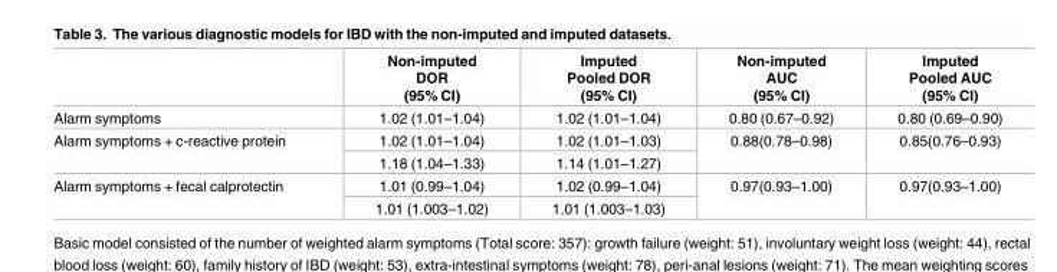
<table><thead><tr><td></td><td>Non-imputed DOR (95% CI)</td><td>Imputed Pooled DOR (95% CI)</td><td>Non-imputed AUC (95% CI)</td><td>Imputed Pooled AUC (95% CI)</td></tr></thead><tbody><tr><td>Alarm symptoms</td><td>1.02 (1.01–1.04)</td><td>1.02 (1.01–1.04)</td><td>0.80 (0.67–0.92)</td><td>0.80 (0.69–0.90)</td></tr><tr><td rowspan="2">Alarm symptoms + c-reactive protein</td><td>1.02 (1.01–1.04)</td><td>1.02 (1.01–1.03)</td><td rowspan="2">0.88(0.78–0.98)</td><td rowspan="2">0.85(0.76–0.93)</td></tr><tr><td>1.18 (1.04–1.33)</td><td>1.14 (1.01–1.27)</td></tr><tr><td rowspan="2">Alarm symptoms + fecal calprotectin</td><td>1.01 (0.99–1.04)</td><td>1.02 (0.99–1.04)</td><td rowspan="2">0.97(0.93–1.00)</td><td rowspan="2">0.97(0.93–1.00)</td></tr><tr><td>1.01 (1.003–1.02)</td><td>1.01 (1.003–1.03)</td></tr></tbody></table>